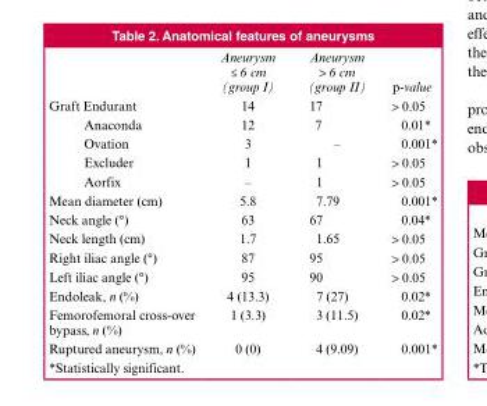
<table><thead><tr><td></td><td>Aneurysm ≤ 6 cm (group I)</td><td>Aneurysm &gt; 6 cm (group II)</td><td>p-value</td></tr></thead><tbody><tr><td>Graft Endurant</td><td>14</td><td>17</td><td>&gt; 0.05</td></tr><tr><td>Anaconda</td><td>12</td><td>7</td><td>0.01*</td></tr><tr><td>Ovation</td><td>3</td><td>–</td><td>0.001*</td></tr><tr><td>Excluder</td><td>1</td><td>1</td><td>&gt; 0.05</td></tr><tr><td>Aorfix</td><td>–</td><td>1</td><td>&gt; 0.05</td></tr><tr><td>Mean diameter (cm)</td><td>5.8</td><td>7.79</td><td>0.001*</td></tr><tr><td>Neck angle (°)</td><td>63</td><td>67</td><td>0.04*</td></tr><tr><td>Neck length (cm)</td><td>1.7</td><td>1.65</td><td>&gt; 0.05</td></tr><tr><td>Right iliac angle (°)</td><td>87</td><td>95</td><td>&gt; 0.05</td></tr><tr><td>Left iliac angle (°)</td><td>95</td><td>90</td><td>&gt; 0.05</td></tr><tr><td>Endoleak, n (%)</td><td>4 (13.3)</td><td>7 (27)</td><td>0.02*</td></tr><tr><td>Femorofemoral cross-over bypass, n (%)</td><td>1 (3.3)</td><td>3 (11.5)</td><td>0.02*</td></tr><tr><td>Ruptured aneurysm, n (%)</td><td>0 (0)</td><td>4 (9.09)</td><td>0.001*</td></tr></tbody></table>